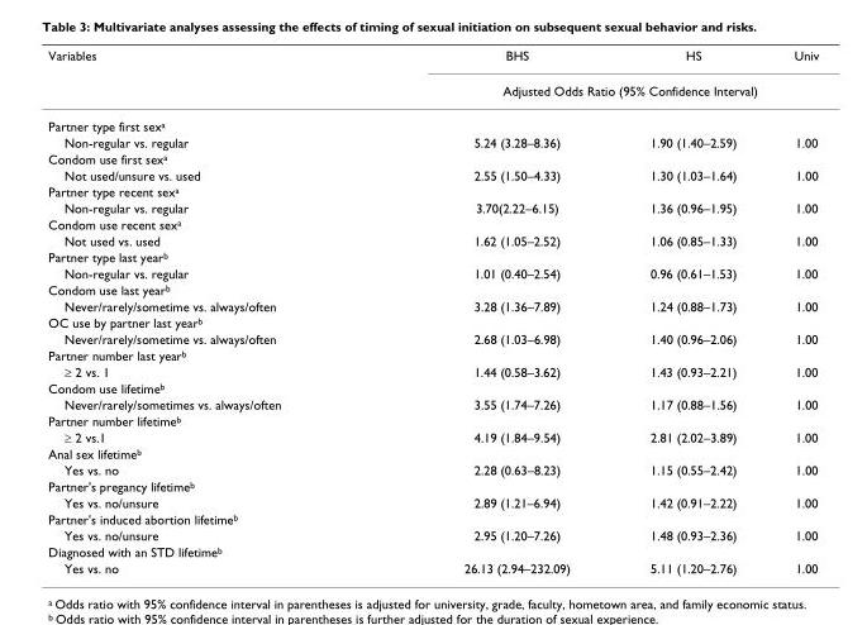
<table><thead><tr><td rowspan="2">Variables</td><td>BHS</td><td>HS</td><td>Univ</td></tr><tr><td colspan="3">Adjusted Odds Ratio (95% Confidence Interval)</td></tr></thead><tbody><tr><td colspan="4">Partner type first sex<sup>a</sup></td></tr><tr><td>Non-regular vs. regular</td><td>5.24 (3.28–8.36)</td><td>1.90 (1.40–2.59)</td><td>1.00</td></tr><tr><td colspan="4">Condom use first sex<sup>a</sup></td></tr><tr><td>Not used/unsure vs. used</td><td>2.55 (1.50–4.33)</td><td>1.30 (1.03–1.64)</td><td>1.00</td></tr><tr><td colspan="4">Partner type recent sex<sup>a</sup></td></tr><tr><td>Non-regular vs. regular</td><td>3.70(2.22–6.15)</td><td>1.36 (0.96–1.95)</td><td>1.00</td></tr><tr><td colspan="4">Condom use recent sex<sup>a</sup></td></tr><tr><td>Not used vs. used</td><td>1.62 (1.05–2.52)</td><td>1.06 (0.85–1.33)</td><td>1.00</td></tr><tr><td colspan="4">Partner type last year<sup>b</sup></td></tr><tr><td>Non-regular vs. regular</td><td>1.01 (0.40–2.54)</td><td>0.96 (0.61–1.53)</td><td>1.00</td></tr><tr><td colspan="4">Condom use last year<sup>b</sup></td></tr><tr><td>Never/rarely/sometime vs. always/often</td><td>3.28 (1.36–7.89)</td><td>1.24 (0.88–1.73)</td><td>1.00</td></tr><tr><td colspan="4">OC use by partner last year<sup>b</sup></td></tr><tr><td>Never/rarely/sometime vs. always/often</td><td>2.68 (1.03–6.98)</td><td>1.40 (0.96–2.06)</td><td>1.00</td></tr><tr><td colspan="4">Partner number last year<sup>b</sup></td></tr><tr><td>≥ 2 vs. 1</td><td>1.44 (0.58–3.62)</td><td>1.43 (0.93–2.21)</td><td>1.00</td></tr><tr><td colspan="4">Condom use lifetime<sup>b</sup></td></tr><tr><td>Never/rarely/sometimes vs. always/often</td><td>3.55 (1.74–7.26)</td><td>1.17 (0.88–1.56)</td><td>1.00</td></tr><tr><td colspan="4">Partner number lifetime<sup>b</sup></td></tr><tr><td>≥ 2 vs.1</td><td>4.19 (1.84–9.54)</td><td>2.81 (2.02–3.89)</td><td>1.00</td></tr><tr><td colspan="4">Anal sex lifetime<sup>b</sup></td></tr><tr><td>Yes vs. no</td><td>2.28 (0.63–8.23)</td><td>1.15 (0.55–2.42)</td><td>1.00</td></tr><tr><td colspan="4">Partner&#x27;s pregancy lifetime<sup>b</sup></td></tr><tr><td>Yes vs. no/unsure</td><td>2.89 (1.21–6.94)</td><td>1.42 (0.91–2.22)</td><td>1.00</td></tr><tr><td colspan="4">Partner&#x27;s induced abortion lifetime<sup>b</sup></td></tr><tr><td>Yes vs. no/unsure</td><td>2.95 (1.20–7.26)</td><td>1.48 (0.93–2.36)</td><td>1.00</td></tr><tr><td colspan="4">Diagnosed with an STD lifetime<sup>b</sup></td></tr><tr><td>Yes vs. no</td><td>26.13 (2.94–232.09)</td><td>5.11 (1.20–2.76)</td><td>1.00</td></tr></tbody></table>